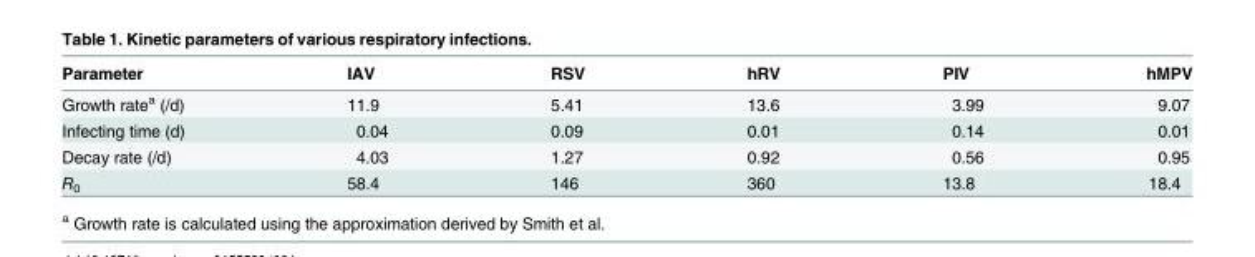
<table><thead><tr><td>Parameter</td><td>IAV</td><td>RSV</td><td>hRV</td><td>PIV</td><td>hMPV</td></tr></thead><tbody><tr><td>Growth rate<sup>a</sup> (/d)</td><td>11.9</td><td>5.41</td><td>13.6</td><td>3.99</td><td>9.07</td></tr><tr><td>Infecting time (d)</td><td>0.04</td><td>0.09</td><td>0.01</td><td>0.14</td><td>0.01</td></tr><tr><td>Decay rate (/d)</td><td>4.03</td><td>1.27</td><td>0.92</td><td>0.56</td><td>0.95</td></tr><tr><td>R<sub>0</sub></td><td>58.4</td><td>146</td><td>360</td><td>13.8</td><td>18.4</td></tr></tbody></table>